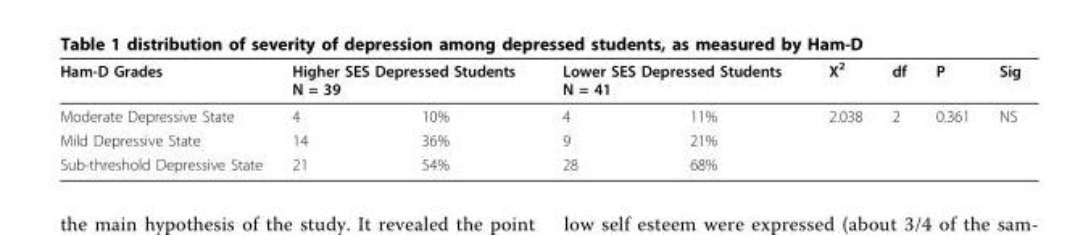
<table><thead><tr><td rowspan="2">Ham-D Grades Moderate Depressive State</td><td colspan="2">Higher SES Depressed Students N = 39</td><td colspan="2">Lower SES Depressed Students N = 41</td><td rowspan="2">X<sup>2</sup> 2.038</td><td rowspan="2">df 2</td><td rowspan="2">P 0.361</td><td rowspan="2">Sig NS</td></tr><tr><td>4</td><td>10%</td><td>4</td><td>11%</td></tr></thead><tbody><tr><td>Mild Depressive State</td><td>14</td><td>36%</td><td>9</td><td>21%</td><td></td><td></td><td></td><td></td></tr><tr><td>Sub-threshold Depressive State</td><td>21</td><td>54%</td><td>28</td><td>68%</td><td></td><td></td><td></td><td></td></tr></tbody></table>